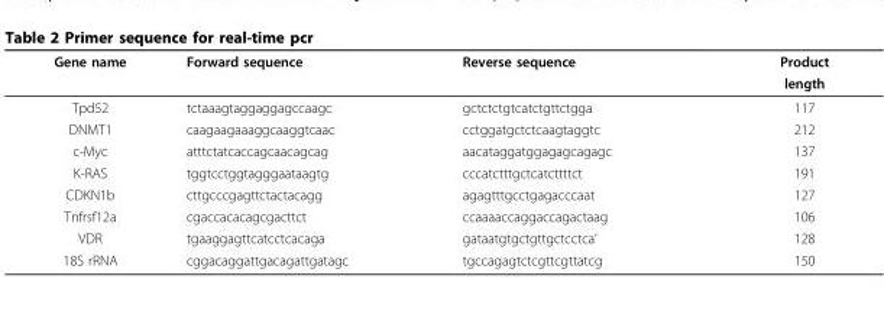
<table><thead><tr><td rowspan="2">Gene name</td><td rowspan="2">Forward sequence</td><td rowspan="2">Reverse sequence</td><td rowspan="2">Product length</td></tr><tr></tr></thead><tbody><tr><td>Tpd52</td><td>tctaaagtaggaggagccaagc</td><td>gctctctgtcatctgttctgga</td><td>117</td></tr><tr><td>DNMT1</td><td>caagaagaaaggcaaggtcaac</td><td>cctggatgctctcaagtaggtc</td><td>212</td></tr><tr><td>c-Myc</td><td>atttctatcaccagcaacagcag</td><td>aacataggatggagagcagagc</td><td>137</td></tr><tr><td>K-RAS</td><td>tggtcctggtagggaataagtg</td><td>cccatctttgctcatcttttct</td><td>191</td></tr><tr><td>CDKN1b</td><td>cttgcccgagttctactacagg</td><td>agagtttgcctgagacccaat</td><td>127</td></tr><tr><td>Tnfrsf12a</td><td>cgaccacacagcgacttct</td><td>ccaaaaccaggaccagactaag</td><td>106</td></tr><tr><td>VDR</td><td>tgaaggagttcatcctcacaga</td><td>gataatgtgctgttgctcctca’</td><td>128</td></tr><tr><td>18S rRNA</td><td>cggacaggattgacagattgatagc</td><td>tgccagagtctcgttcgttatcg</td><td>150</td></tr></tbody></table>